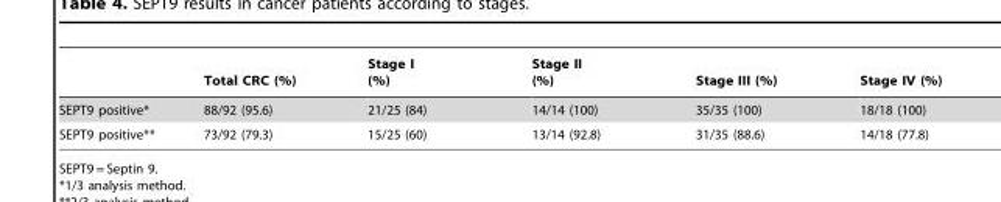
<table><thead><tr><td></td><td>Total CRC (%)</td><td>Stage I (%)</td><td>Stage II (%)</td><td>Stage III (%)</td><td>Stage IV (%)</td></tr></thead><tbody><tr><td>SEPT9 positive*</td><td>88/92 (95.6)</td><td>21/25 (84)</td><td>14/14 (100)</td><td>35/35 (100)</td><td>18/18 (100)</td></tr><tr><td>SEPT9 positive**</td><td>73/92 (79.3)</td><td>15/25 (60)</td><td>13/14 (92.8)</td><td>31/35 (88.6)</td><td>14/18 (77.8)</td></tr></tbody></table>